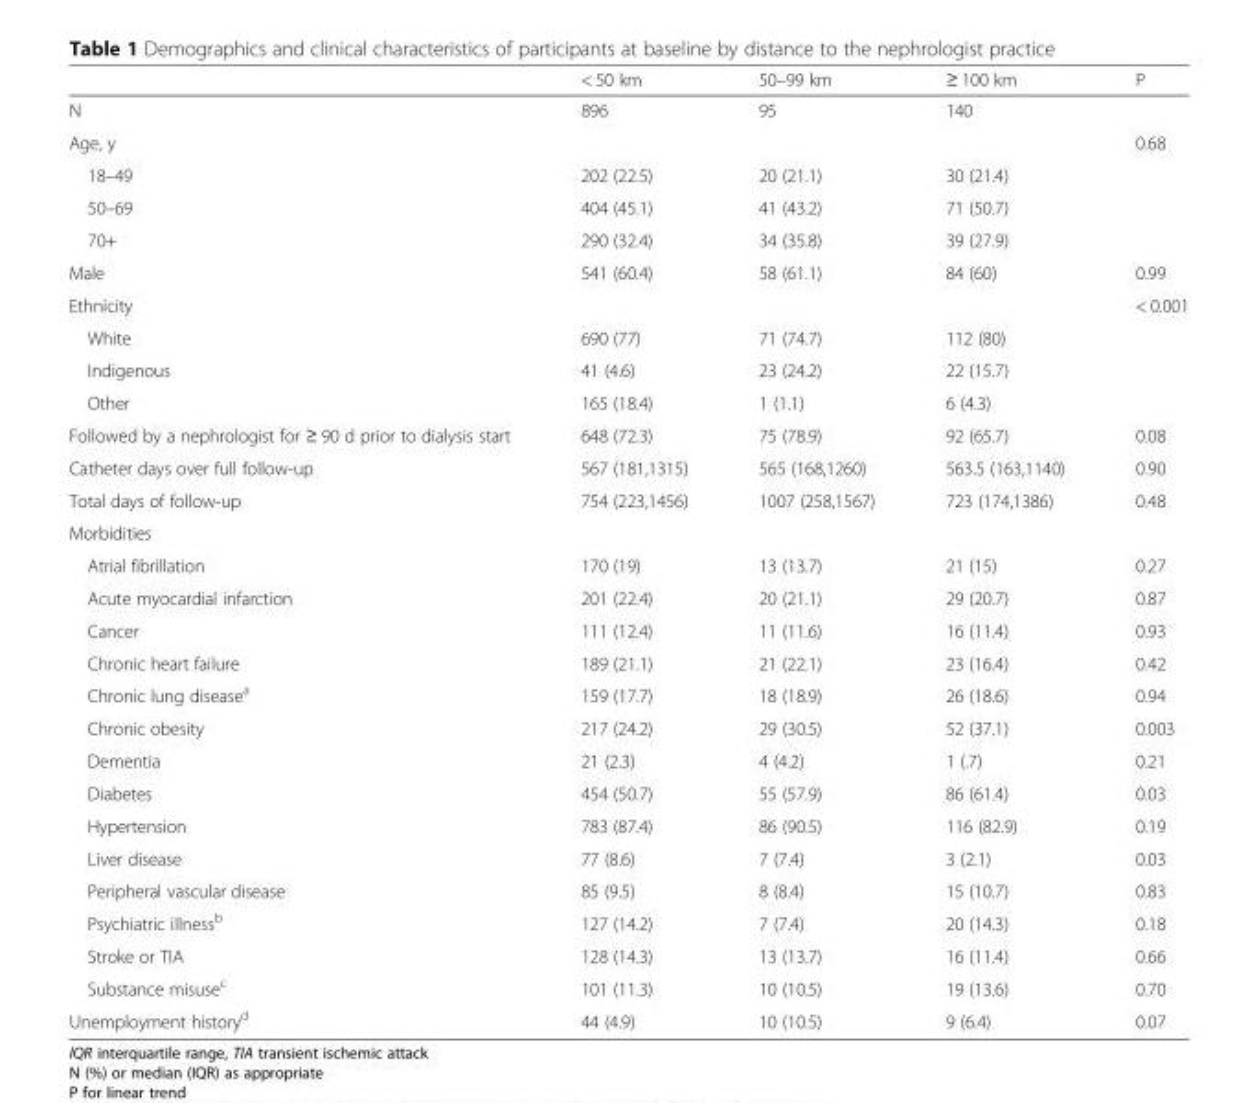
<table><thead><tr><td></td><td>&lt; 50 km</td><td>50–99 km</td><td>≥ 100 km</td><td>P</td></tr></thead><tbody><tr><td>N</td><td>896</td><td>95</td><td>140</td><td></td></tr><tr><td>Age, y</td><td></td><td></td><td></td><td>0.68</td></tr><tr><td>18–49</td><td>202 (22.5)</td><td>20 (21.1)</td><td>30 (21.4)</td><td></td></tr><tr><td>50–69</td><td>404 (45.1)</td><td>41 (43.2)</td><td>71 (50.7)</td><td></td></tr><tr><td>70+</td><td>290 (32.4)</td><td>34 (35.8)</td><td>39 (27.9)</td><td></td></tr><tr><td>Male</td><td>541 (60.4)</td><td>58 (61.1)</td><td>84 (60)</td><td>0.99</td></tr><tr><td>Ethnicity</td><td></td><td></td><td></td><td>&lt; 0.001</td></tr><tr><td>White</td><td>690 (77)</td><td>71 (74.7)</td><td>112 (80)</td><td></td></tr><tr><td>Indigenous</td><td>41 (4.6)</td><td>23 (24.2)</td><td>22 (15.7)</td><td></td></tr><tr><td>Other</td><td>165 (18.4)</td><td>1 (1.1)</td><td>6 (4.3)</td><td></td></tr><tr><td>Followed by a nephrologist for ≥ 90 d prior to dialysis start</td><td>648 (72.3)</td><td>75 (78.9)</td><td>92 (65.7)</td><td>0.08</td></tr><tr><td>Catheter days over full follow-up</td><td>567 (181,1315)</td><td>565 (168,1260)</td><td>563.5 (163,1140)</td><td>0.90</td></tr><tr><td>Total days of follow-up</td><td>754 (223,1456)</td><td>1007 (258,1567)</td><td>723 (174,1386)</td><td>0.48</td></tr><tr><td colspan="5">Morbidities</td></tr><tr><td>Atrial fibrillation</td><td>170 (19)</td><td>13 (13.7)</td><td>21 (15)</td><td>0.27</td></tr><tr><td>Acute myocardial infarction</td><td>201 (22.4)</td><td>20 (21.1)</td><td>29 (20.7)</td><td>0.87</td></tr><tr><td>Cancer</td><td>111 (12.4)</td><td>11 (11.6)</td><td>16 (11.4)</td><td>0.93</td></tr><tr><td>Chronic heart failure</td><td>189 (21.1)</td><td>21 (22.1)</td><td>23 (16.4)</td><td>0.42</td></tr><tr><td>Chronic lung disease<sup>a</sup></td><td>159 (17.7)</td><td>18 (18.9)</td><td>26 (18.6)</td><td>0.94</td></tr><tr><td>Chronic obesity</td><td>217 (24.2)</td><td>29 (30.5)</td><td>52 (37.1)</td><td>0.003</td></tr><tr><td>Dementia</td><td>21 (2.3)</td><td>4 (4.2)</td><td>1 (.7)</td><td>0.21</td></tr><tr><td>Diabetes</td><td>454 (50.7)</td><td>55 (57.9)</td><td>86 (61.4)</td><td>0.03</td></tr><tr><td>Hypertension</td><td>783 (87.4)</td><td>86 (90.5)</td><td>116 (82.9)</td><td>0.19</td></tr><tr><td>Liver disease</td><td>77 (8.6)</td><td>7 (7.4)</td><td>3 (2.1)</td><td>0.03</td></tr><tr><td>Peripheral vascular disease</td><td>85 (9.5)</td><td>8 (8.4)</td><td>15 (10.7)</td><td>0.83</td></tr><tr><td>Psychiatric illness<sup>b</sup></td><td>127 (14.2)</td><td>7 (7.4)</td><td>20 (14.3)</td><td>0.18</td></tr><tr><td>Stroke or TIA</td><td>128 (14.3)</td><td>13 (13.7)</td><td>16 (11.4)</td><td>0.66</td></tr><tr><td>Substance misuse<sup>c</sup></td><td>101 (11.3)</td><td>10 (10.5)</td><td>19 (13.6)</td><td>0.70</td></tr><tr><td>Unemployment history<sup>d</sup></td><td>44 (4.9)</td><td>10 (10.5)</td><td>9 (6.4)</td><td>0.07</td></tr></tbody></table>